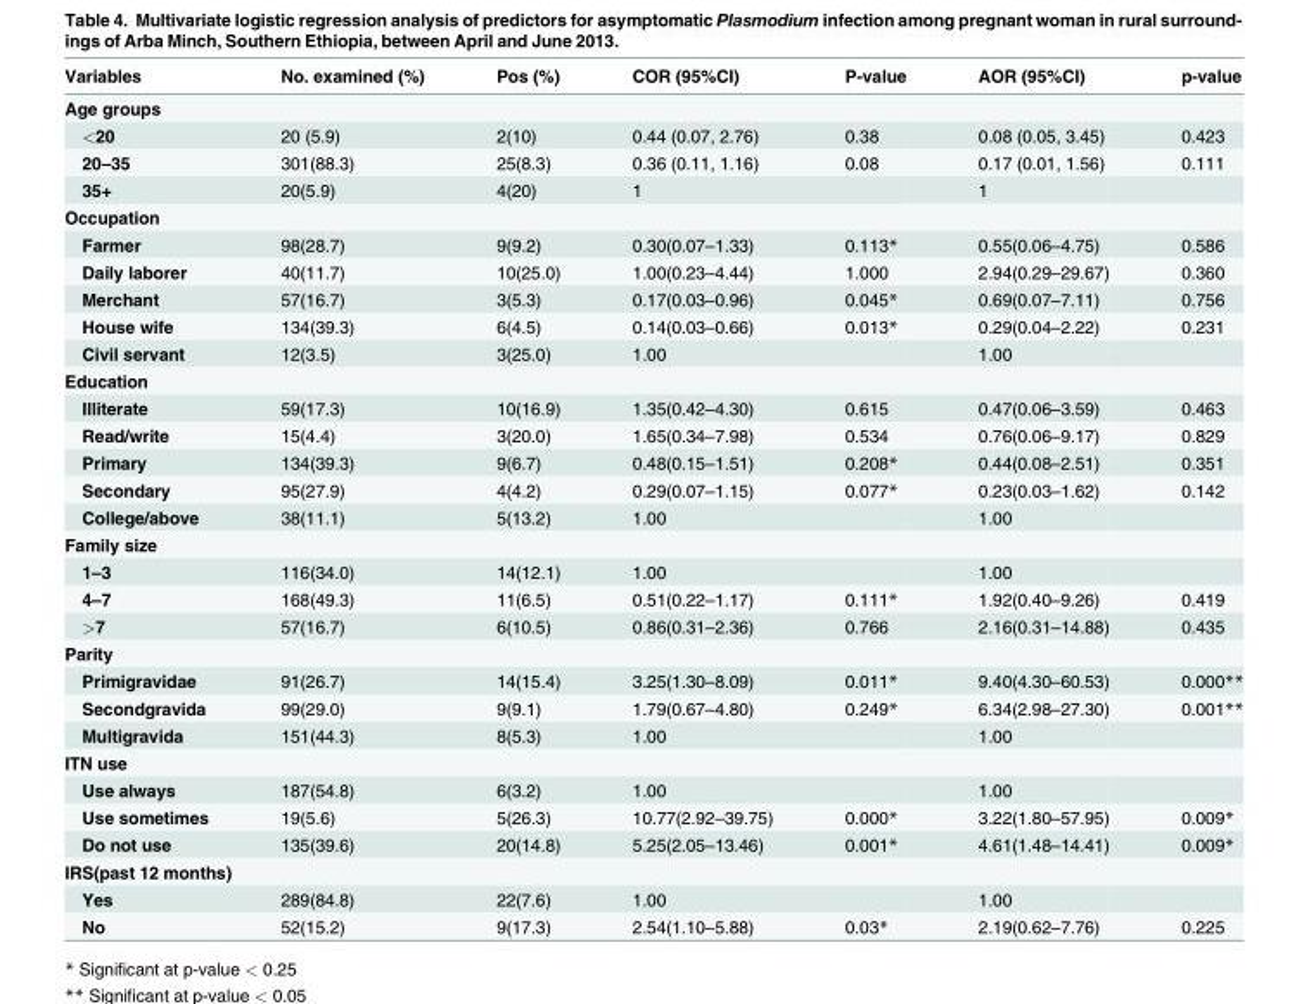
<table><thead><tr><td>Variables</td><td>No. examined (%)</td><td>Pos (%)</td><td>COR (95%CI)</td><td>P-value</td><td>AOR (95%CI)</td><td>p-value</td></tr></thead><tbody><tr><td colspan="7">Age groups</td></tr><tr><td>&lt;20</td><td>20 (5.9)</td><td>2(10)</td><td>0.44 (0.07, 2.76)</td><td>0.38</td><td>0.08 (0.05, 3.45)</td><td>0.423</td></tr><tr><td>20–35</td><td>301(88.3)</td><td>25(8.3)</td><td>0.36 (0.11, 1.16)</td><td>0.08</td><td>0.17 (0.01, 1.56)</td><td>0.111</td></tr><tr><td>35+</td><td>20(5.9)</td><td>4(20)</td><td>1</td><td></td><td>1</td><td></td></tr><tr><td colspan="7">Occupation</td></tr><tr><td>Farmer</td><td>98(28.7)</td><td>9(9.2)</td><td>0.30(0.07–1.33)</td><td>0.113*</td><td>0.55(0.06–4.75)</td><td>0.586</td></tr><tr><td>Daily laborer</td><td>40(11.7)</td><td>10(25.0)</td><td>1.00(0.23–4.44)</td><td>1.000</td><td>2.94(0.29–29.67)</td><td>0.360</td></tr><tr><td>Merchant</td><td>57(16.7)</td><td>3(5.3)</td><td>0.17(0.03–0.96)</td><td>0.045*</td><td>0.69(0.07–7.11)</td><td>0.756</td></tr><tr><td>House wife</td><td>134(39.3)</td><td>6(4.5)</td><td>0.14(0.03–0.66)</td><td>0.013*</td><td>0.29(0.04–2.22)</td><td>0.231</td></tr><tr><td>Civil servant</td><td>12(3.5)</td><td>3(25.0)</td><td>1.00</td><td></td><td>1.00</td><td></td></tr><tr><td colspan="7">Education</td></tr><tr><td>Illiterate</td><td>59(17.3)</td><td>10(16.9)</td><td>1.35(0.42–4.30)</td><td>0.615</td><td>0.47(0.06–3.59)</td><td>0.463</td></tr><tr><td>Read/write</td><td>15(4.4)</td><td>3(20.0)</td><td>1.65(0.34–7.98)</td><td>0.534</td><td>0.76(0.06–9.17)</td><td>0.829</td></tr><tr><td>Primary</td><td>134(39.3)</td><td>9(6.7)</td><td>0.48(0.15–1.51)</td><td>0.208*</td><td>0.44(0.08–2.51)</td><td>0.351</td></tr><tr><td>Secondary</td><td>95(27.9)</td><td>4(4.2)</td><td>0.29(0.07–1.15)</td><td>0.077*</td><td>0.23(0.03–1.62)</td><td>0.142</td></tr><tr><td>College/above</td><td>38(11.1)</td><td>5(13.2)</td><td>1.00</td><td></td><td>1.00</td><td></td></tr><tr><td colspan="7">Family size</td></tr><tr><td>1–3</td><td>116(34.0)</td><td>14(12.1)</td><td>1.00</td><td></td><td>1.00</td><td></td></tr><tr><td>4–7</td><td>168(49.3)</td><td>11(6.5)</td><td>0.51(0.22–1.17)</td><td>0.111*</td><td>1.92(0.40–9.26)</td><td>0.419</td></tr><tr><td>&gt;7</td><td>57(16.7)</td><td>6(10.5)</td><td>0.86(0.31–2.36)</td><td>0.766</td><td>2.16(0.31–14.88)</td><td>0.435</td></tr><tr><td colspan="7">Parity</td></tr><tr><td>Primigravidae</td><td>91(26.7)</td><td>14(15.4)</td><td>3.25(1.30–8.09)</td><td>0.011*</td><td>9.40(4.30–60.53)</td><td>0.000**</td></tr><tr><td>Secondgravida</td><td>99(29.0)</td><td>9(9.1)</td><td>1.79(0.67–4.80)</td><td>0.249*</td><td>6.34(2.98–27.30)</td><td>0.001**</td></tr><tr><td>Multigravida</td><td>151(44.3)</td><td>8(5.3)</td><td>1.00</td><td></td><td>1.00</td><td></td></tr><tr><td colspan="7">ITN use</td></tr><tr><td>Use always</td><td>187(54.8)</td><td>6(3.2)</td><td>1.00</td><td></td><td>1.00</td><td></td></tr><tr><td>Use sometimes</td><td>19(5.6)</td><td>5(26.3)</td><td>10.77(2.92–39.75)</td><td>0.000*</td><td>3.22(1.80–57.95)</td><td>0.009*</td></tr><tr><td>Do not use</td><td>135(39.6)</td><td>20(14.8)</td><td>5.25(2.05–13.46)</td><td>0.001*</td><td>4.61(1.48–14.41)</td><td>0.009*</td></tr><tr><td colspan="7">IRS(past 12 months)</td></tr><tr><td>Yes</td><td>289(84.8)</td><td>22(7.6)</td><td>1.00</td><td></td><td>1.00</td><td></td></tr><tr><td>No</td><td>52(15.2)</td><td>9(17.3)</td><td>2.54(1.10–5.88)</td><td>0.03*</td><td>2.19(0.62–7.76)</td><td>0.225</td></tr></tbody></table>